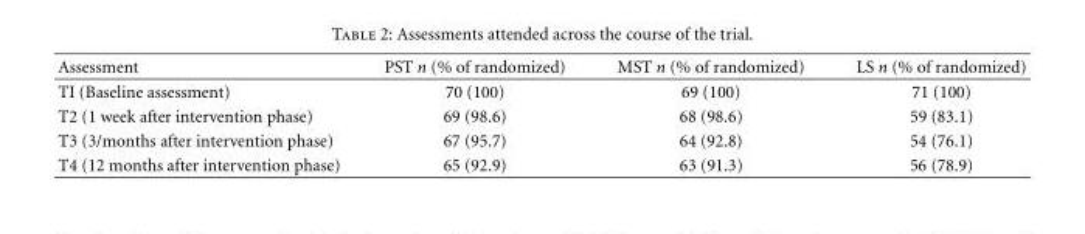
<table><thead><tr><td>Assessment</td><td>PST n (% of randomized)</td><td>MST n (% of randomized)</td><td>LS n (% of randomized)</td></tr></thead><tbody><tr><td>TI (Baseline assessment)</td><td>70 (100)</td><td>69 (100)</td><td>71 (100)</td></tr><tr><td>T2 (1 week after intervention phase)</td><td>69 (98.6)</td><td>68 (98.6)</td><td>59 (83.1)</td></tr><tr><td>T3 (3/months after intervention phase)</td><td>67 (95.7)</td><td>64 (92.8)</td><td>54 (76.1)</td></tr><tr><td>T4 (12 months after intervention phase)</td><td>65 (92.9)</td><td>63 (91.3)</td><td>56 (78.9)</td></tr></tbody></table>